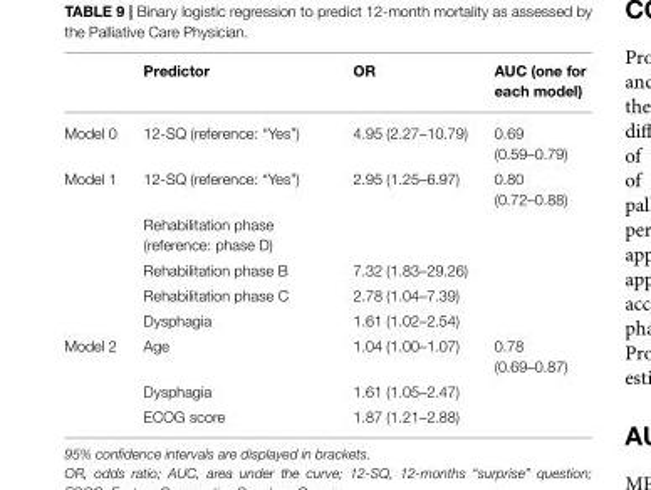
<table><thead><tr><td></td><td>Predictor</td><td>OR</td><td>AUC (one for each model)</td></tr></thead><tbody><tr><td>Model 0</td><td>12-SQ (reference: “Yes”)</td><td>4.95 (2.27–10.79)</td><td>0.69 (0.59–0.79)</td></tr><tr><td rowspan="5">Model 1</td><td>12-SQ (reference: “Yes”)</td><td>2.95 (1.25–6.97)</td><td>0.80 (0.72–0.88)</td></tr><tr><td>Rehabilitation phase (reference: phase D)</td><td></td><td></td></tr><tr><td>Rehabilitation phase B</td><td>7.32 (1.83–29.26)</td><td></td></tr><tr><td>Rehabilitation phase C</td><td>2.78 (1.04–7.39)</td><td></td></tr><tr><td>Dysphagia</td><td>1.61 (1.02–2.54)</td><td></td></tr><tr><td rowspan="3">Model 2</td><td>Age</td><td>1.04 (1.00–1.07)</td><td>0.78 (0.69–0.87)</td></tr><tr><td>Dysphagia</td><td>1.61 (1.05–2.47)</td><td></td></tr><tr><td>ECOG score</td><td>1.87 (1.21–2.88)</td><td></td></tr></tbody></table>